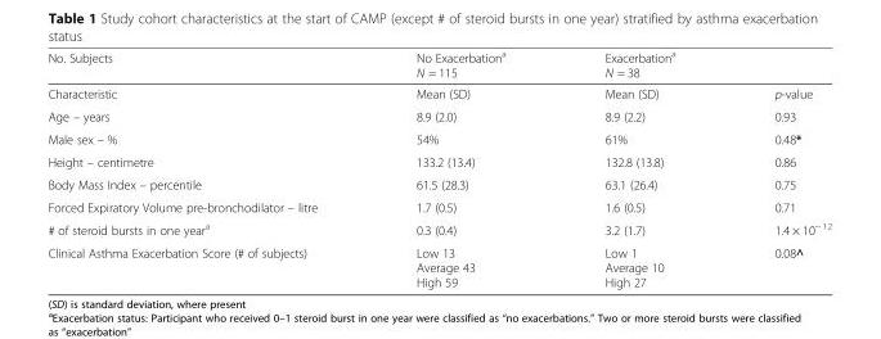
<table><thead><tr><td>No. Subjects</td><td>No Exacerbation<sup>a</sup> N = 115</td><td>Exacerbation<sup>a</sup> N = 38</td><td></td></tr></thead><tbody><tr><td>Characteristic</td><td>Mean (SD)</td><td>Mean (SD)</td><td>p-value</td></tr><tr><td>Age – years</td><td>8.9 (2.0)</td><td>8.9 (2.2)</td><td>0.93</td></tr><tr><td>Male sex – %</td><td>54%</td><td>61%</td><td>0.48*</td></tr><tr><td>Height – centimetre</td><td>133.2 (13.4)</td><td>132.8 (13.8)</td><td>0.86</td></tr><tr><td>Body Mass Index – percentile</td><td>61.5 (28.3)</td><td>63.1 (26.4)</td><td>0.75</td></tr><tr><td>Forced Expiratory Volume pre-bronchodilator – litre</td><td>1.7 (0.5)</td><td>1.6 (0.5)</td><td>0.71</td></tr><tr><td># of steroid bursts in one year<sup>a</sup></td><td>0.3 (0.4)</td><td>3.2 (1.7)</td><td>1.4 × 10<sup>− 12</sup></td></tr><tr><td>Clinical Asthma Exacerbation Score (# of subjects)</td><td>Low 13 Average 43 High 59</td><td>Low 1 Average 10 High 27</td><td>0.08^</td></tr></tbody></table>